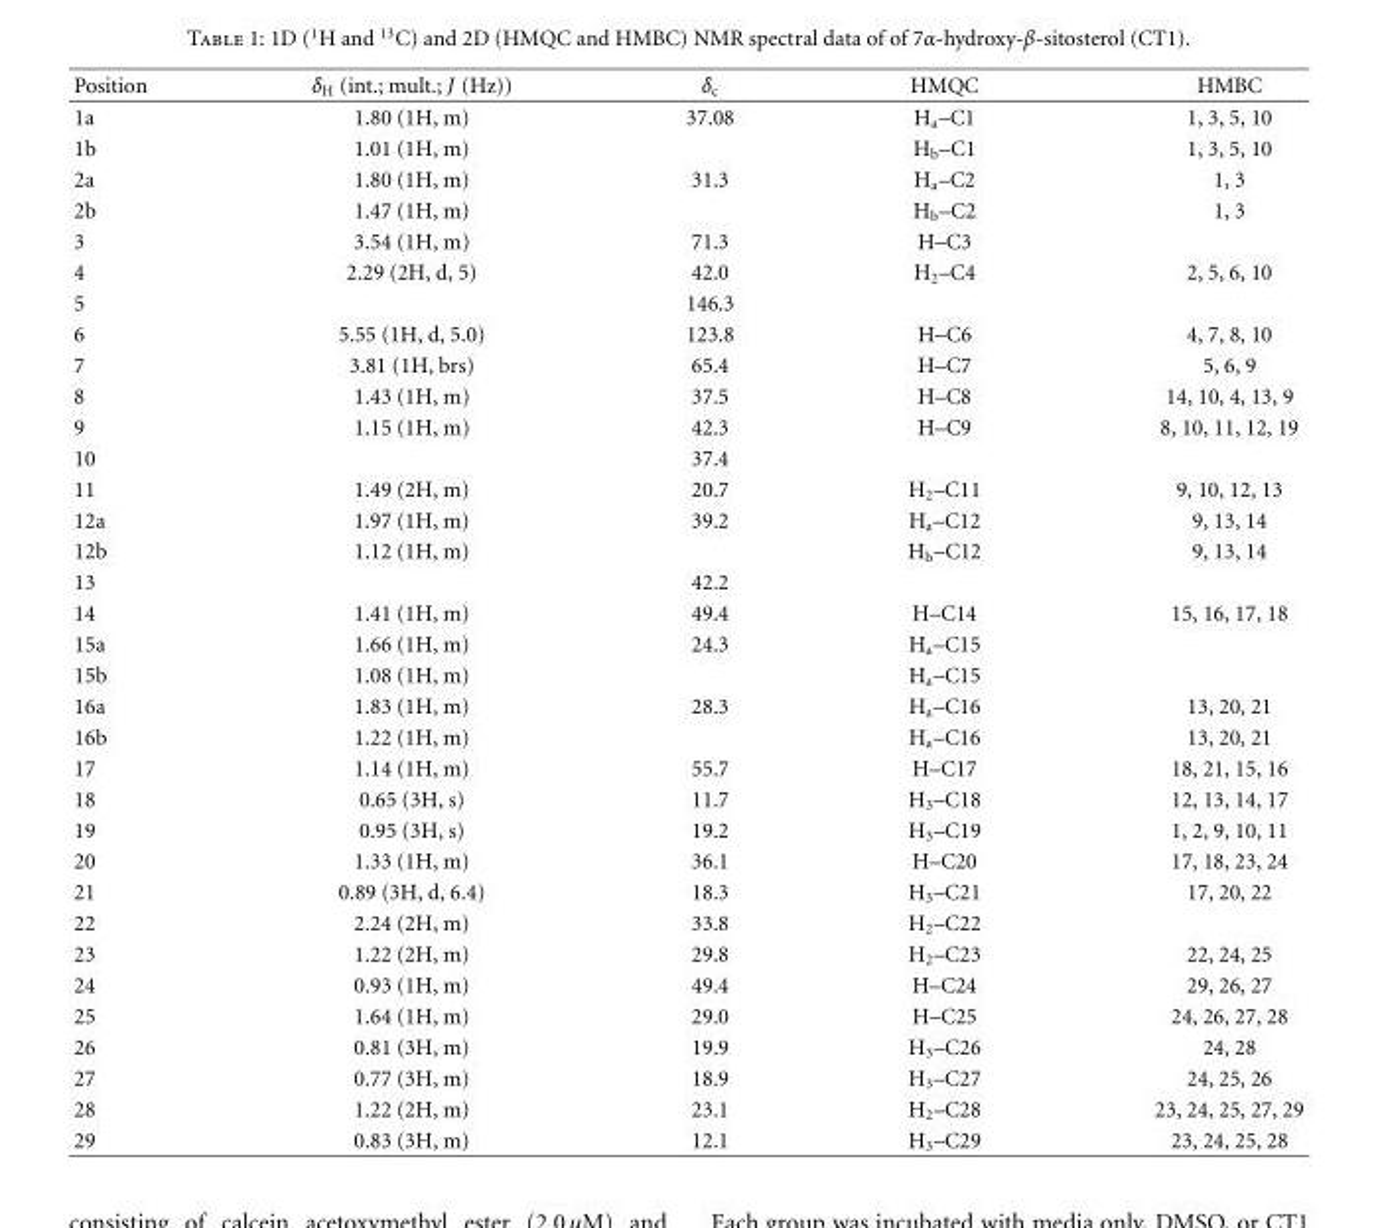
<table><thead><tr><td>Position</td><td>δ<sub>H</sub> (int.; mult.; J (Hz))</td><td>δ<sub>c</sub></td><td>HMQC</td><td>HMBC</td></tr></thead><tbody><tr><td>1a</td><td>1.80 (1H, m)</td><td>37.08</td><td>H<sub>a</sub>–C1</td><td>1, 3, 5, 10</td></tr><tr><td>1b</td><td>1.01 (1H, m)</td><td></td><td>H<sub>b</sub>–C1</td><td>1, 3, 5, 10</td></tr><tr><td>2a</td><td>1.80 (1H, m)</td><td>31.3</td><td>H<sub>a</sub>–C2</td><td>1, 3</td></tr><tr><td>2b</td><td>1.47 (1H, m)</td><td></td><td>H<sub>b</sub>–C2</td><td>1, 3</td></tr><tr><td>3</td><td>3.54 (1H, m)</td><td>71.3</td><td>H–C3</td><td></td></tr><tr><td>4</td><td>2.29 (2H, d, 5)</td><td>42.0</td><td>H<sub>2</sub>–C4</td><td>2, 5, 6, 10</td></tr><tr><td>5</td><td></td><td>146.3</td><td></td><td></td></tr><tr><td>6</td><td>5.55 (1H, d, 5.0)</td><td>123.8</td><td>H–C6</td><td>4, 7, 8, 10</td></tr><tr><td>7</td><td>3.81 (1H, brs)</td><td>65.4</td><td>H–C7</td><td>5, 6, 9</td></tr><tr><td>8</td><td>1.43 (1H, m)</td><td>37.5</td><td>H–C8</td><td>14, 10, 4, 13, 9</td></tr><tr><td>9</td><td>1.15 (1H, m)</td><td>42.3</td><td>H–C9</td><td>8, 10, 11, 12, 19</td></tr><tr><td>10</td><td></td><td>37.4</td><td></td><td></td></tr><tr><td>11</td><td>1.49 (2H, m)</td><td>20.7</td><td>H<sub>2</sub>–C11</td><td>9, 10, 12, 13</td></tr><tr><td>12a</td><td>1.97 (1H, m)</td><td>39.2</td><td>H<sub>a</sub>–C12</td><td>9, 13, 14</td></tr><tr><td>12b</td><td>1.12 (1H, m)</td><td></td><td>H<sub>b</sub>–C12</td><td>9, 13, 14</td></tr><tr><td>13</td><td></td><td>42.2</td><td></td><td></td></tr><tr><td>14</td><td>1.41 (1H, m)</td><td>49.4</td><td>H–C14</td><td>15, 16, 17, 18</td></tr><tr><td>15a</td><td>1.66 (1H, m)</td><td>24.3</td><td>H<sub>a</sub>–C15</td><td></td></tr><tr><td>15b</td><td>1.08 (1H, m)</td><td></td><td>H<sub>a</sub>–C15</td><td></td></tr><tr><td>16a</td><td>1.83 (1H, m)</td><td>28.3</td><td>H<sub>a</sub>–C16</td><td>13, 20, 21</td></tr><tr><td>16b</td><td>1.22 (1H, m)</td><td></td><td>H<sub>a</sub>–C16</td><td>13, 20, 21</td></tr><tr><td>17</td><td>1.14 (1H, m)</td><td>55.7</td><td>H–C17</td><td>18, 21, 15, 16</td></tr><tr><td>18</td><td>0.65 (3H, s)</td><td>11.7</td><td>H<sub>3</sub>–C18</td><td>12, 13, 14, 17</td></tr><tr><td>19</td><td>0.95 (3H, s)</td><td>19.2</td><td>H<sub>3</sub>–C19</td><td>1, 2, 9, 10, 11</td></tr><tr><td>20</td><td>1.33 (1H, m)</td><td>36.1</td><td>H–C20</td><td>17, 18, 23, 24</td></tr><tr><td>21</td><td>0.89 (3H, d, 6.4)</td><td>18.3</td><td>H<sub>3</sub>–C21</td><td>17, 20, 22</td></tr><tr><td>22</td><td>2.24 (2H, m)</td><td>33.8</td><td>H<sub>2</sub>–C22</td><td></td></tr><tr><td>23</td><td>1.22 (2H, m)</td><td>29.8</td><td>H<sub>2</sub>–C23</td><td>22, 24, 25</td></tr><tr><td>24</td><td>0.93 (1H, m)</td><td>49.4</td><td>H–C24</td><td>29, 26, 27</td></tr><tr><td>25</td><td>1.64 (1H, m)</td><td>29.0</td><td>H–C25</td><td>24, 26, 27, 28</td></tr><tr><td>26</td><td>0.81 (3H, m)</td><td>19.9</td><td>H<sub>3</sub>–C26</td><td>24, 28</td></tr><tr><td>27</td><td>0.77 (3H, m)</td><td>18.9</td><td>H<sub>3</sub>–C27</td><td>24, 25, 26</td></tr><tr><td>28</td><td>1.22 (2H, m)</td><td>23.1</td><td>H<sub>2</sub>–C28</td><td>23, 24, 25, 27, 29</td></tr><tr><td>29</td><td>0.83 (3H, m)</td><td>12.1</td><td>H<sub>3</sub>–C29</td><td>23, 24, 25, 28</td></tr></tbody></table>